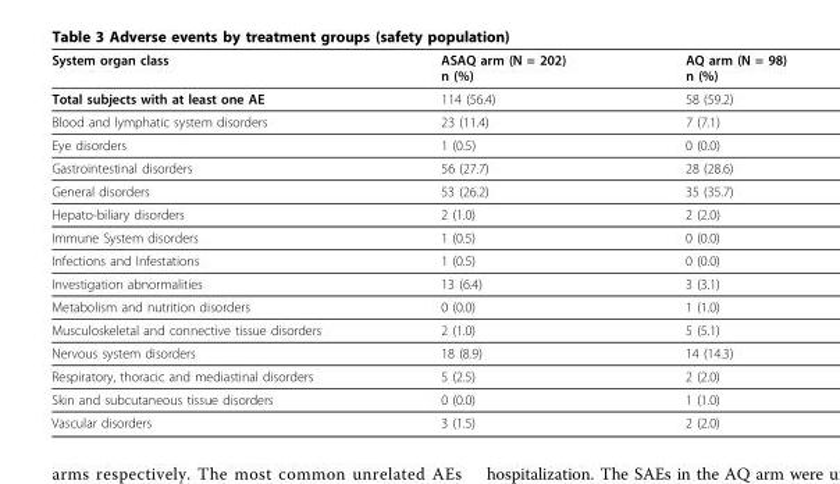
<table><thead><tr><td>System organ class</td><td>ASAQ arm (N = 202) n (%)</td><td>AQ arm (N = 98) n (%)</td></tr></thead><tbody><tr><td>Total subjects with at least one AE</td><td>114 (56.4)</td><td>58 (59.2)</td></tr><tr><td>Blood and lymphatic system disorders</td><td>23 (11.4)</td><td>7 (7.1)</td></tr><tr><td>Eye disorders</td><td>1 (0.5)</td><td>0 (0.0)</td></tr><tr><td>Gastrointestinal disorders</td><td>56 (27.7)</td><td>28 (28.6)</td></tr><tr><td>General disorders</td><td>53 (26.2)</td><td>35 (35.7)</td></tr><tr><td>Hepato-biliary disorders</td><td>2 (1.0)</td><td>2 (2.0)</td></tr><tr><td>Immune System disorders</td><td>1 (0.5)</td><td>0 (0.0)</td></tr><tr><td>Infections and Infestations</td><td>1 (0.5)</td><td>0 (0.0)</td></tr><tr><td>Investigation abnormalities</td><td>13 (6.4)</td><td>3 (3.1)</td></tr><tr><td>Metabolism and nutrition disorders</td><td>0 (0.0)</td><td>1 (1.0)</td></tr><tr><td>Musculoskeletal and connective tissue disorders</td><td>2 (1.0)</td><td>5 (5.1)</td></tr><tr><td>Nervous system disorders</td><td>18 (8.9)</td><td>14 (14.3)</td></tr><tr><td>Respiratory, thoracic and mediastinal disorders</td><td>5 (2.5)</td><td>2 (2.0)</td></tr><tr><td>Skin and subcutaneous tissue disorders</td><td>0 (0.0)</td><td>1 (1.0)</td></tr><tr><td>Vascular disorders</td><td>3 (1.5)</td><td>2 (2.0)</td></tr></tbody></table>